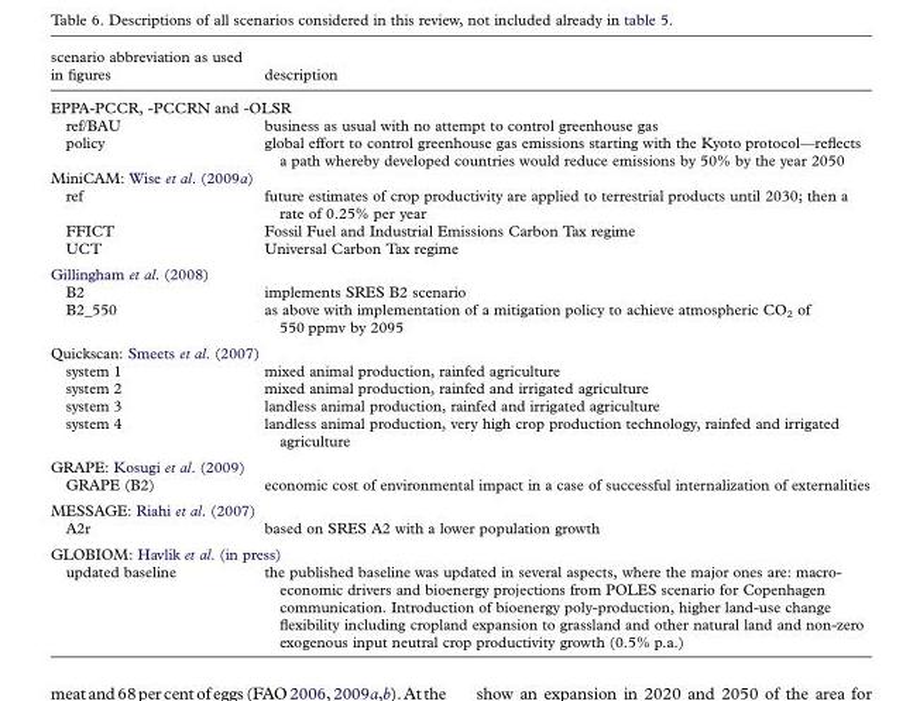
<table><thead><tr><td>scenario abbreviation as used in figures</td><td>description</td></tr></thead><tbody><tr><td colspan="2">EPPA-PCCR, -PCCRN and -OLSR</td></tr><tr><td>ref/BAU</td><td>business as usual with no attempt to control greenhouse gas</td></tr><tr><td>policy</td><td>global effort to control greenhouse gas emissions starting with the Kyoto protocol—reflects a path whereby developed countries would reduce emissions by 50% by the year 2050</td></tr><tr><td colspan="2">MiniCAM: Wise et al. (2009a)</td></tr><tr><td>ref</td><td>future estimates of crop productivity are applied to terrestrial products until 2030; then a rate of 0.25% per year</td></tr><tr><td>FFICT</td><td>Fossil Fuel and Industrial Emissions Carbon Tax regime</td></tr><tr><td>UCT</td><td>Universal Carbon Tax regime</td></tr><tr><td colspan="2">Gillingham et al. (2008)</td></tr><tr><td>B2</td><td>implements SRES B2 scenario</td></tr><tr><td>B2_550</td><td>as above with implementation of a mitigation policy to achieve atmospheric CO<sub>2</sub> of 550 ppmv by 2095</td></tr><tr><td colspan="2">Quickscan: Smeets et al. (2007)</td></tr><tr><td>system 1</td><td>mixed animal production, rainfed agriculture</td></tr><tr><td>system 2</td><td>mixed animal production, rainfed and irrigated agriculture</td></tr><tr><td>system 3</td><td>landless animal production, rainfed and irrigated agriculture</td></tr><tr><td>system 4</td><td>landless animal production, very high crop production technology, rainfed and irrigated agriculture</td></tr><tr><td colspan="2">GRAPE: Kosugi et al. (2009)</td></tr><tr><td>GRAPE (B2)</td><td>economic cost of environmental impact in a case of successful internalization of externalities</td></tr><tr><td colspan="2">MESSAGE: Riahi et al. (2007)</td></tr><tr><td>A2r</td><td>based on SRES A2 with a lower population growth</td></tr><tr><td colspan="2">GLOBIOM: Havlı´k et al. (in press)</td></tr><tr><td>updated baseline</td><td>the published baseline was updated in several aspects, where the major ones are: macro- economic drivers and bioenergy projections from POLES scenario for Copenhagen communication. Introduction of bioenergy poly-production, higher land-use change flexibility including cropland expansion to grassland and other natural land and non-zero exogenous input neutral crop productivity growth (0.5% p.a.)</td></tr></tbody></table>